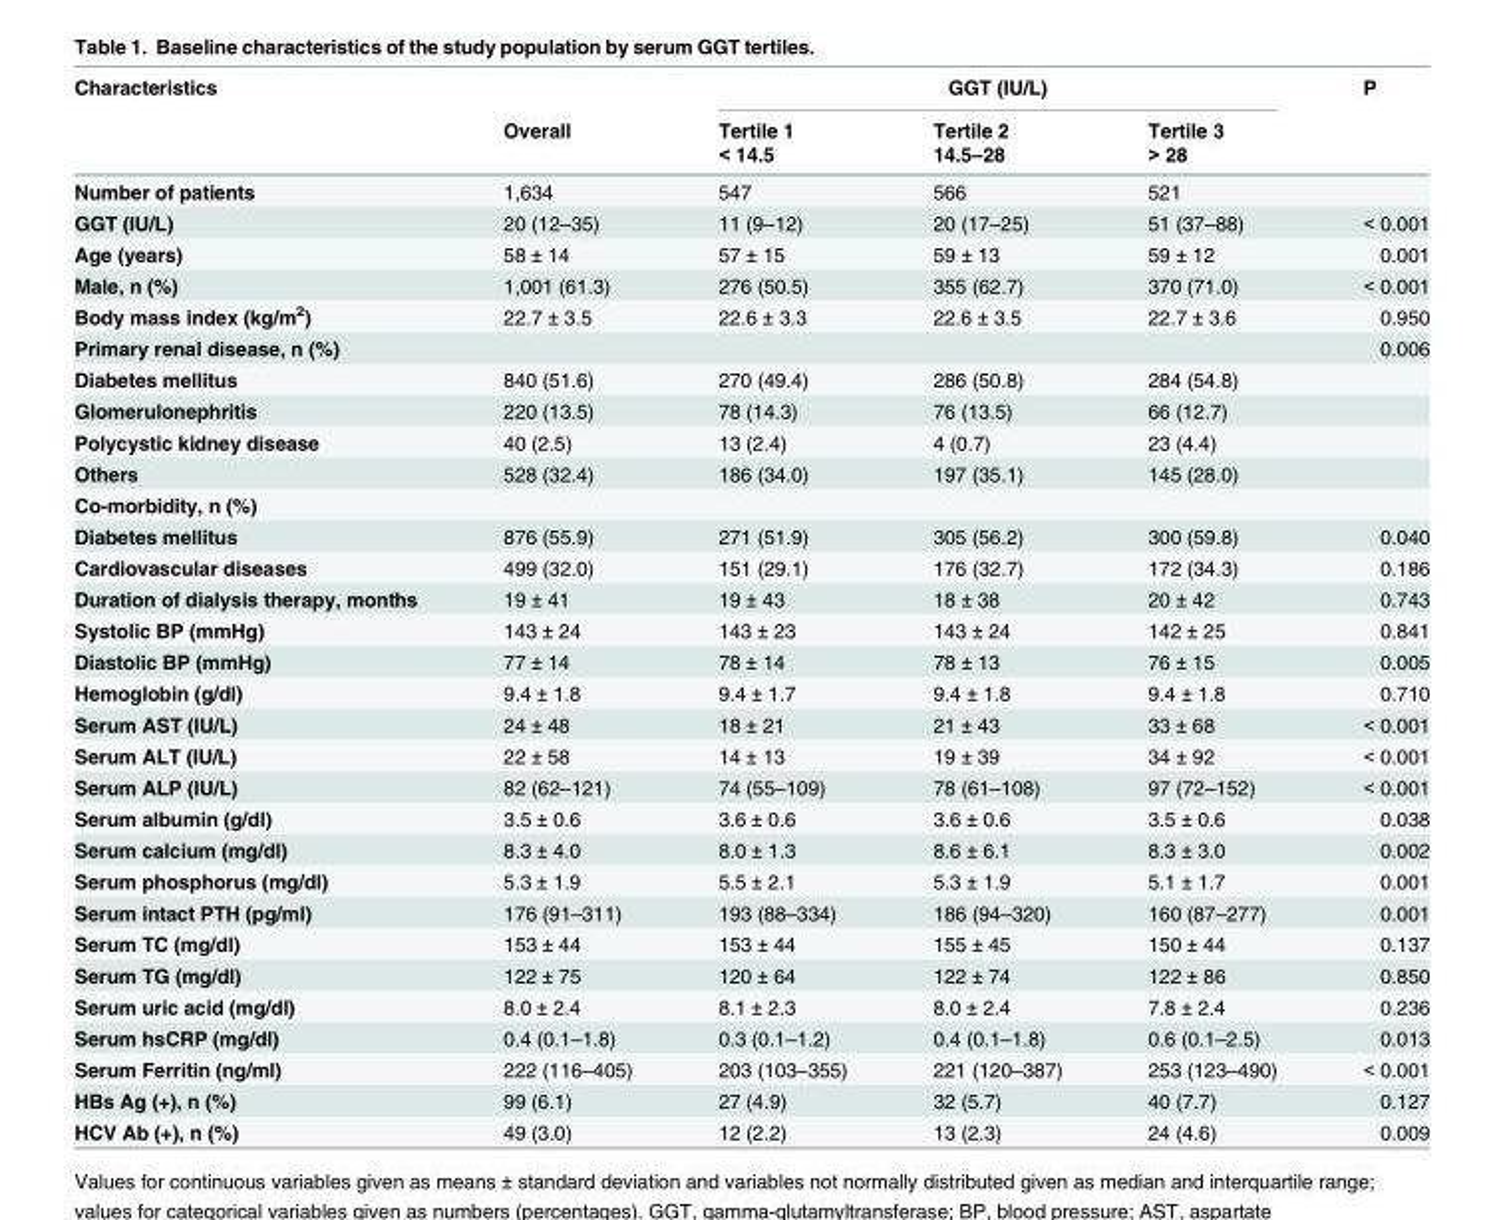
<table><thead><tr><td rowspan="3">Characteristics</td><td rowspan="3">Overall</td><td colspan="3">GGT (IU/L)</td><td rowspan="3">P</td></tr><tr><td rowspan="2">Tertile 1 &lt; 14.5</td><td rowspan="2">Tertile 2 14.5–28</td><td rowspan="2">Tertile 3 &gt; 28</td></tr><tr></tr></thead><tbody><tr><td>Number of patients</td><td>1,634</td><td>547</td><td>566</td><td>521</td><td></td></tr><tr><td>GGT (IU/L)</td><td>20 (12–35)</td><td>11 (9–12)</td><td>20 (17–25)</td><td>51 (37–88)</td><td>&lt; 0.001</td></tr><tr><td>Age (years)</td><td>58 ± 14</td><td>57 ± 15</td><td>59 ± 13</td><td>59 ± 12</td><td>0.001</td></tr><tr><td>Male, n (%)</td><td>1,001 (61.3)</td><td>276 (50.5)</td><td>355 (62.7)</td><td>370 (71.0)</td><td>&lt; 0.001</td></tr><tr><td>Body mass index (kg/m<sup>2</sup>)</td><td>22.7 ± 3.5</td><td>22.6 ± 3.3</td><td>22.6 ± 3.5</td><td>22.7 ± 3.6</td><td>0.950</td></tr><tr><td>Primary renal disease, n (%)</td><td></td><td></td><td></td><td></td><td>0.006</td></tr><tr><td>Diabetes mellitus</td><td>840 (51.6)</td><td>270 (49.4)</td><td>286 (50.8)</td><td>284 (54.8)</td><td></td></tr><tr><td>Glomerulonephritis</td><td>220 (13.5)</td><td>78 (14.3)</td><td>76 (13.5)</td><td>66 (12.7)</td><td></td></tr><tr><td>Polycystic kidney disease</td><td>40 (2.5)</td><td>13 (2.4)</td><td>4 (0.7)</td><td>23 (4.4)</td><td></td></tr><tr><td>Others</td><td>528 (32.4)</td><td>186 (34.0)</td><td>197 (35.1)</td><td>145 (28.0)</td><td></td></tr><tr><td colspan="6">Co-morbidity, n (%)</td></tr><tr><td>Diabetes mellitus</td><td>876 (55.9)</td><td>271 (51.9)</td><td>305 (56.2)</td><td>300 (59.8)</td><td>0.040</td></tr><tr><td>Cardiovascular diseases</td><td>499 (32.0)</td><td>151 (29.1)</td><td>176 (32.7)</td><td>172 (34.3)</td><td>0.186</td></tr><tr><td>Duration of dialysis therapy, months</td><td>19 ± 41</td><td>19 ± 43</td><td>18 ± 38</td><td>20 ± 42</td><td>0.743</td></tr><tr><td>Systolic BP (mmHg)</td><td>143 ± 24</td><td>143 ± 23</td><td>143 ± 24</td><td>142 ± 25</td><td>0.841</td></tr><tr><td>Diastolic BP (mmHg)</td><td>77 ± 14</td><td>78 ± 14</td><td>78 ± 13</td><td>76 ± 15</td><td>0.005</td></tr><tr><td>Hemoglobin (g/dl)</td><td>9.4 ± 1.8</td><td>9.4 ± 1.7</td><td>9.4 ± 1.8</td><td>9.4 ± 1.8</td><td>0.710</td></tr><tr><td>Serum AST (IU/L)</td><td>24 ± 48</td><td>18 ± 21</td><td>21 ± 43</td><td>33 ± 68</td><td>&lt; 0.001</td></tr><tr><td>Serum ALT (IU/L)</td><td>22 ± 58</td><td>14 ± 13</td><td>19 ± 39</td><td>34 ± 92</td><td>&lt; 0.001</td></tr><tr><td>Serum ALP (IU/L)</td><td>82 (62–121)</td><td>74 (55–109)</td><td>78 (61–108)</td><td>97 (72–152)</td><td>&lt; 0.001</td></tr><tr><td>Serum albumin (g/dl)</td><td>3.5 ± 0.6</td><td>3.6 ± 0.6</td><td>3.6 ± 0.6</td><td>3.5 ± 0.6</td><td>0.038</td></tr><tr><td>Serum calcium (mg/dl)</td><td>8.3 ± 4.0</td><td>8.0 ± 1.3</td><td>8.6 ± 6.1</td><td>8.3 ± 3.0</td><td>0.002</td></tr><tr><td>Serum phosphorus (mg/dl)</td><td>5.3 ± 1.9</td><td>5.5 ± 2.1</td><td>5.3 ± 1.9</td><td>5.1 ± 1.7</td><td>0.001</td></tr><tr><td>Serum intact PTH (pg/ml)</td><td>176 (91–311)</td><td>193 (88–334)</td><td>186 (94–320)</td><td>160 (87–277)</td><td>0.001</td></tr><tr><td>Serum TC (mg/dl)</td><td>153 ± 44</td><td>153 ± 44</td><td>155 ± 45</td><td>150 ± 44</td><td>0.137</td></tr><tr><td>Serum TG (mg/dl)</td><td>122 ± 75</td><td>120 ± 64</td><td>122 ± 74</td><td>122 ± 86</td><td>0.850</td></tr><tr><td>Serum uric acid (mg/dl)</td><td>8.0 ± 2.4</td><td>8.1 ± 2.3</td><td>8.0 ± 2.4</td><td>7.8 ± 2.4</td><td>0.236</td></tr><tr><td>Serum hsCRP (mg/dl)</td><td>0.4 (0.1–1.8)</td><td>0.3 (0.1–1.2)</td><td>0.4 (0.1–1.8)</td><td>0.6 (0.1–2.5)</td><td>0.013</td></tr><tr><td>Serum Ferritin (ng/ml)</td><td>222 (116–405)</td><td>203 (103–355)</td><td>221 (120–387)</td><td>253 (123–490)</td><td>&lt; 0.001</td></tr><tr><td>HBs Ag (+), n (%)</td><td>99 (6.1)</td><td>27 (4.9)</td><td>32 (5.7)</td><td>40 (7.7)</td><td>0.127</td></tr><tr><td>HCV Ab (+), n (%)</td><td>49 (3.0)</td><td>12 (2.2)</td><td>13 (2.3)</td><td>24 (4.6)</td><td>0.009</td></tr></tbody></table>